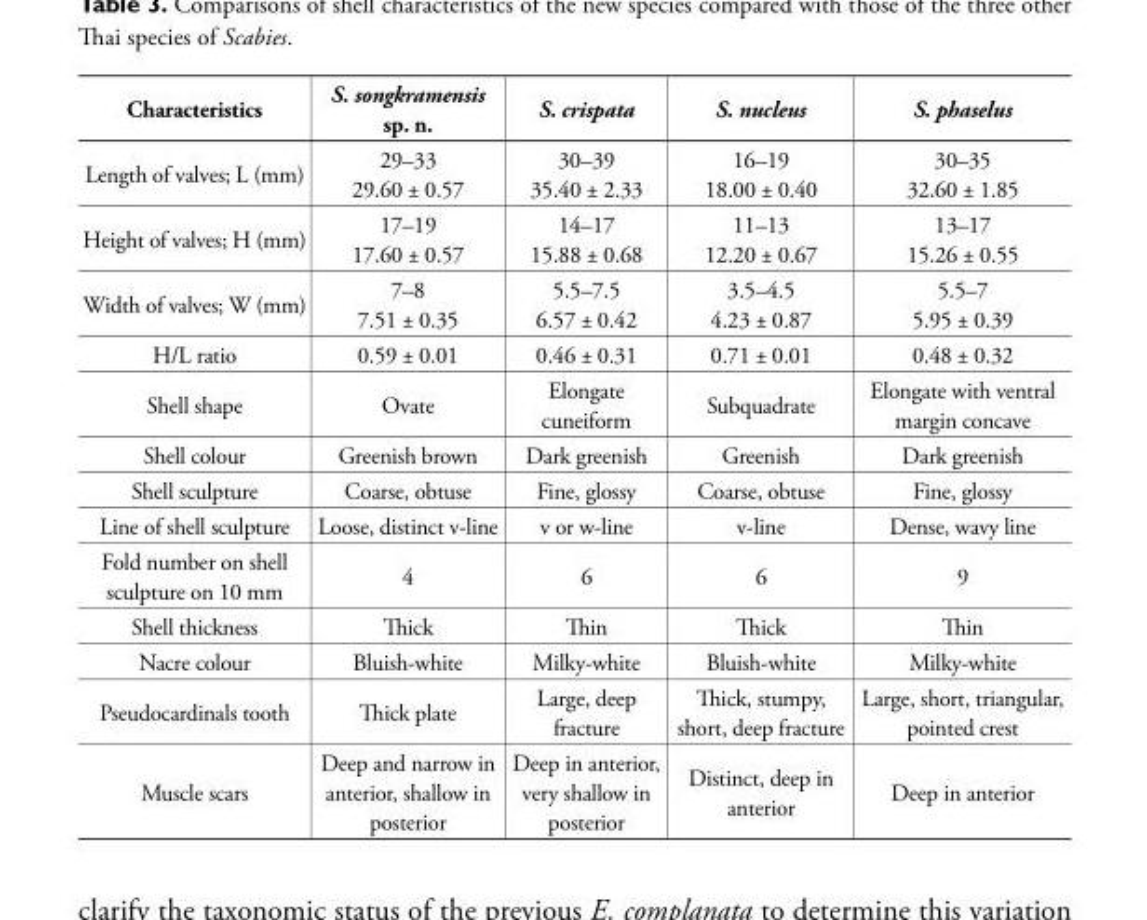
<table><thead><tr><td>Characteristics</td><td>S. songkramensis sp. n.</td><td>S. crispata</td><td>S. nucleus</td><td>S. phaselus</td></tr></thead><tbody><tr><td>Length of valves; L (mm)</td><td>29–33 29.60 ± 0.57</td><td>30–39 35.40 ± 2.33</td><td>16–19 18.00 ± 0.40</td><td>30–35 32.60 ± 1.85</td></tr><tr><td>Height of valves; H (mm)</td><td>17–19 17.60 ± 0.57</td><td>14–17 15.88 ± 0.68</td><td>11–13 12.20 ± 0.67</td><td>13–17 15.26 ± 0.55</td></tr><tr><td>Width of valves; W (mm)</td><td>7–8 7.51 ± 0.35</td><td>5.5–7.5 6.57 ± 0.42</td><td>3.5–4.5 4.23 ± 0.87</td><td>5.5–7 5.95 ± 0.39</td></tr><tr><td>H/L ratio</td><td>0.59 ± 0.01</td><td>0.46 ± 0.31</td><td>0.71 ± 0.01</td><td>0.48 ± 0.32</td></tr><tr><td>Shell shape</td><td>Ovate</td><td>Elongate cuneiform</td><td>Subquadrate</td><td>Elongate with ventral margin concave</td></tr><tr><td>Shell colour</td><td>Greenish brown</td><td>Dark greenish</td><td>Greenish</td><td>Dark greenish</td></tr><tr><td>Shell sculpture</td><td>Coarse, obtuse</td><td>Fine, glossy</td><td>Coarse, obtuse</td><td>Fine, glossy</td></tr><tr><td>Line of shell sculpture</td><td>Loose, distinct v-line</td><td>v or w-line</td><td>v-line</td><td>Dense, wavy line</td></tr><tr><td>Fold number on shell sculpture on 10 mm</td><td>4</td><td>6</td><td>6</td><td>9</td></tr><tr><td>Shell thickness</td><td>Thick</td><td>Thin</td><td>Thick</td><td>Thin</td></tr><tr><td>Nacre colour</td><td>Bluish-white</td><td>Milky-white</td><td>Bluish-white</td><td>Milky-white</td></tr><tr><td>Pseudocardinals tooth</td><td>Thick plate</td><td>Large, deep fracture</td><td>Thick, stumpy, short, deep fracture</td><td>Large, short, triangular, pointed crest</td></tr><tr><td>Muscle scars</td><td>Deep and narrow in anterior, shallow in posterior</td><td>Deep in anterior, very shallow in posterior</td><td>Distinct, deep in anterior</td><td>Deep in anterior</td></tr></tbody></table>